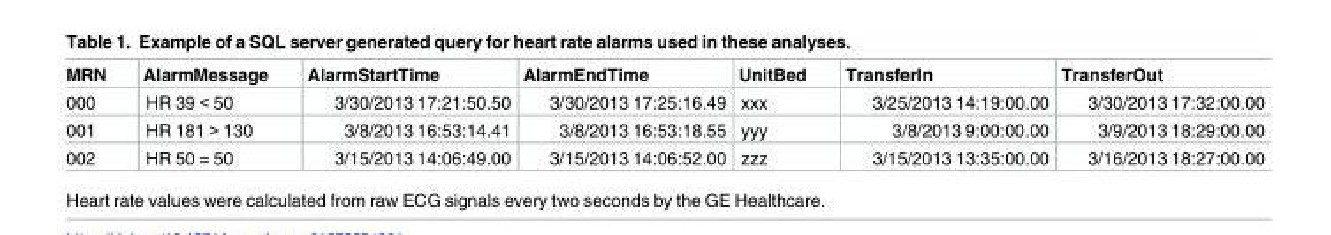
<table><thead><tr><td>MRN</td><td>AlarmMessage</td><td>AlarmStartTime</td><td>AlarmEndTime</td><td>UnitBed</td><td>TransferIn</td><td>TransferOut</td></tr></thead><tbody><tr><td>000</td><td>HR 39 &lt; 50</td><td>3/30/2013 17:21:50.50</td><td>3/30/2013 17:25:16.49</td><td>xxx</td><td>3/25/2013 14:19:00.00</td><td>3/30/2013 17:32:00.00</td></tr><tr><td>001</td><td>HR 181 &gt; 130</td><td>3/8/2013 16:53:14.41</td><td>3/8/2013 16:53:18.55</td><td>yyy</td><td>3/8/2013 9:00:00.00</td><td>3/9/2013 18:29:00.00</td></tr><tr><td>002</td><td>HR 50 = 50</td><td>3/15/2013 14:06:49.00</td><td>3/15/2013 14:06:52.00</td><td>zzz</td><td>3/15/2013 13:35:00.00</td><td>3/16/2013 18:27:00.00</td></tr></tbody></table>